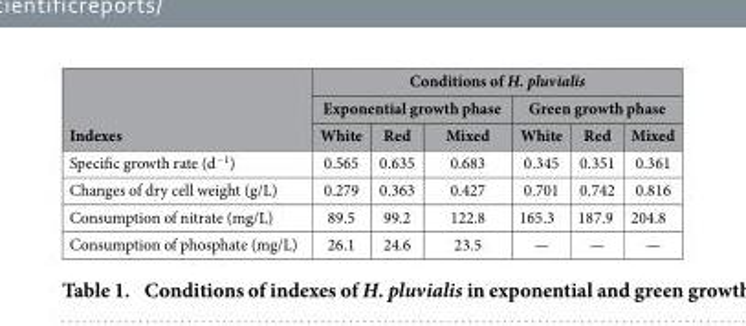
<table><thead><tr><td rowspan="3">Indexes</td><td colspan="6">Conditions of H. pluvialis</td></tr><tr><td colspan="3">Exponential growth phase</td><td colspan="3">Green growth phase</td></tr><tr><td>White</td><td>Red</td><td>Mixed</td><td>White</td><td>Red</td><td>Mixed</td></tr></thead><tbody><tr><td>Specific growth rate (d<sup>−1</sup>)</td><td>0.565</td><td>0.635</td><td>0.683</td><td>0.345</td><td>0.351</td><td>0.361</td></tr><tr><td>Changes of dry cell weight (g/L)</td><td>0.279</td><td>0.363</td><td>0.427</td><td>0.701</td><td>0.742</td><td>0.816</td></tr><tr><td>Consumption of nitrate (mg/L)</td><td>89.5</td><td>99.2</td><td>122.8</td><td>165.3</td><td>187.9</td><td>204.8</td></tr><tr><td>Consumption of phosphate (mg/L)</td><td>26.1</td><td>24.6</td><td>23.5</td><td>—</td><td>—</td><td>—</td></tr></tbody></table>